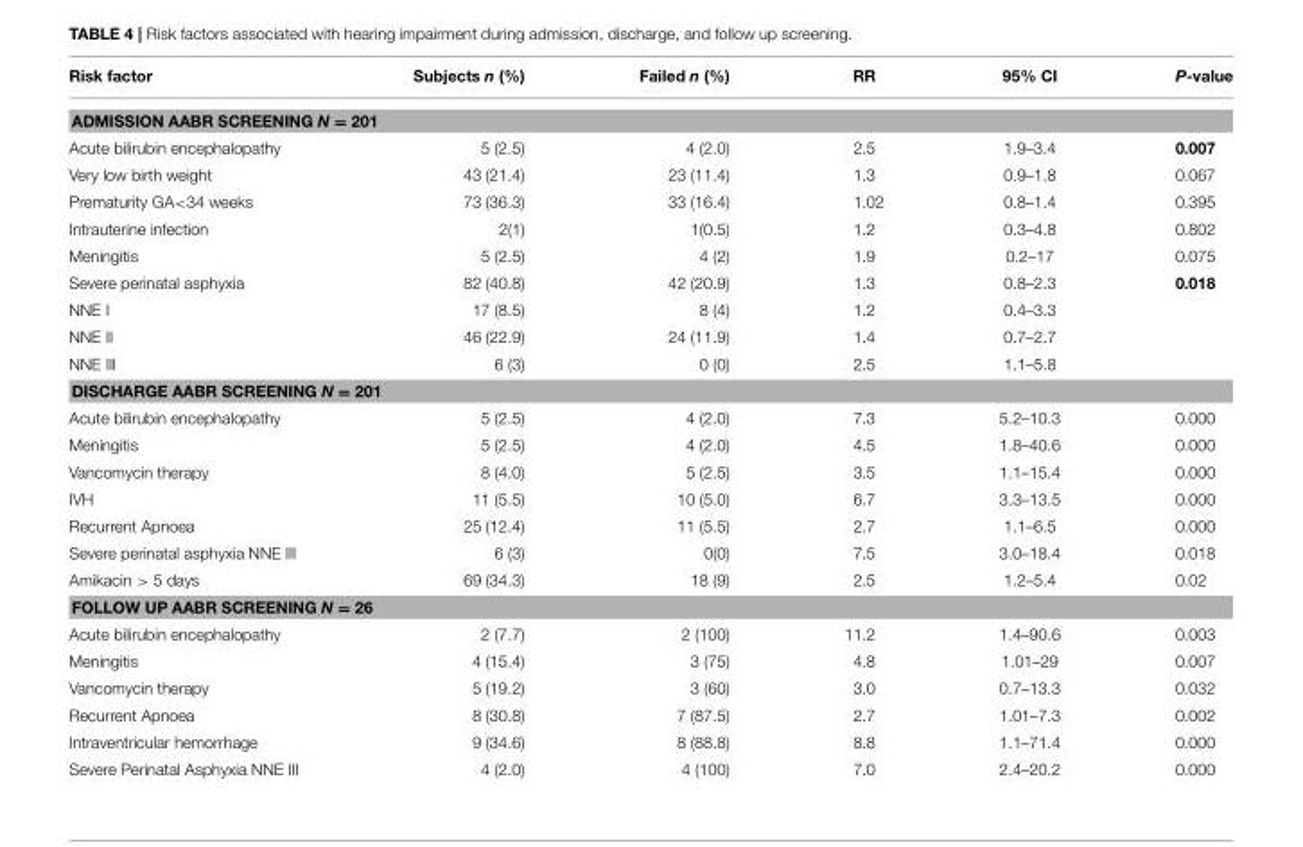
<table><thead><tr><td>Risk factor</td><td>Subjects n (%)</td><td>Failed n (%)</td><td>RR</td><td>95% CI</td><td>P-value</td></tr></thead><tbody><tr><td colspan="6">ADMISSION AABR SCREENING N = 201</td></tr><tr><td>Acute bilirubin encephalopathy</td><td>5 (2.5)</td><td>4 (2.0)</td><td>2.5</td><td>1.9–3.4</td><td>0.007</td></tr><tr><td>Very low birth weight</td><td>43 (21.4)</td><td>23 (11.4)</td><td>1.3</td><td>0.9–1.8</td><td>0.067</td></tr><tr><td>Prematurity GA&lt;34 weeks</td><td>73 (36.3)</td><td>33 (16.4)</td><td>1.02</td><td>0.8–1.4</td><td>0.395</td></tr><tr><td>Intrauterine infection</td><td>2(1)</td><td>1(0.5)</td><td>1.2</td><td>0.3–4.8</td><td>0.802</td></tr><tr><td>Meningitis</td><td>5 (2.5)</td><td>4 (2)</td><td>1.9</td><td>0.2–17</td><td>0.075</td></tr><tr><td>Severe perinatal asphyxia</td><td>82 (40.8)</td><td>42 (20.9)</td><td>1.3</td><td>0.8–2.3</td><td>0.018</td></tr><tr><td>NNE I</td><td>17 (8.5)</td><td>8 (4)</td><td>1.2</td><td>0.4–3.3</td><td></td></tr><tr><td>NNE II</td><td>46 (22.9)</td><td>24 (11.9)</td><td>1.4</td><td>0.7–2.7</td><td></td></tr><tr><td>NNE III</td><td>6 (3)</td><td>0 (0)</td><td>2.5</td><td>1.1–5.8</td><td></td></tr><tr><td colspan="6">DISCHARGE AABR SCREENING N = 201</td></tr><tr><td>Acute bilirubin encephalopathy</td><td>5 (2.5)</td><td>4 (2.0)</td><td>7.3</td><td>5.2–10.3</td><td>0.000</td></tr><tr><td>Meningitis</td><td>5 (2.5)</td><td>4 (2.0)</td><td>4.5</td><td>1.8–40.6</td><td>0.000</td></tr><tr><td>Vancomycin therapy</td><td>8 (4.0)</td><td>5 (2.5)</td><td>3.5</td><td>1.1–15.4</td><td>0.000</td></tr><tr><td>IVH</td><td>11 (5.5)</td><td>10 (5.0)</td><td>6.7</td><td>3.3–13.5</td><td>0.000</td></tr><tr><td>Recurrent Apnoea</td><td>25 (12.4)</td><td>11 (5.5)</td><td>2.7</td><td>1.1–6.5</td><td>0.000</td></tr><tr><td>Severe perinatal asphyxia NNE III</td><td>6 (3)</td><td>0(0)</td><td>7.5</td><td>3.0–18.4</td><td>0.018</td></tr><tr><td>Amikacin &gt; 5 days</td><td>69 (34.3)</td><td>18 (9)</td><td>2.5</td><td>1.2–5.4</td><td>0.02</td></tr><tr><td colspan="6">FOLLOW UP AABR SCREENING N = 26</td></tr><tr><td>Acute bilirubin encephalopathy</td><td>2 (7.7)</td><td>2 (100)</td><td>11.2</td><td>1.4–90.6</td><td>0.003</td></tr><tr><td>Meningitis</td><td>4 (15.4)</td><td>3 (75)</td><td>4.8</td><td>1.01–29</td><td>0.007</td></tr><tr><td>Vancomycin therapy</td><td>5 (19.2)</td><td>3 (60)</td><td>3.0</td><td>0.7–13.3</td><td>0.032</td></tr><tr><td>Recurrent Apnoea</td><td>8 (30.8)</td><td>7 (87.5)</td><td>2.7</td><td>1.01–7.3</td><td>0.002</td></tr><tr><td>Intraventricular hemorrhage</td><td>9 (34.6)</td><td>8 (88.8)</td><td>8.8</td><td>1.1–71.4</td><td>0.000</td></tr><tr><td>Severe Perinatal Asphyxia NNE III</td><td>4 (2.0)</td><td>4 (100)</td><td>7.0</td><td>2.4–20.2</td><td>0.000</td></tr></tbody></table>